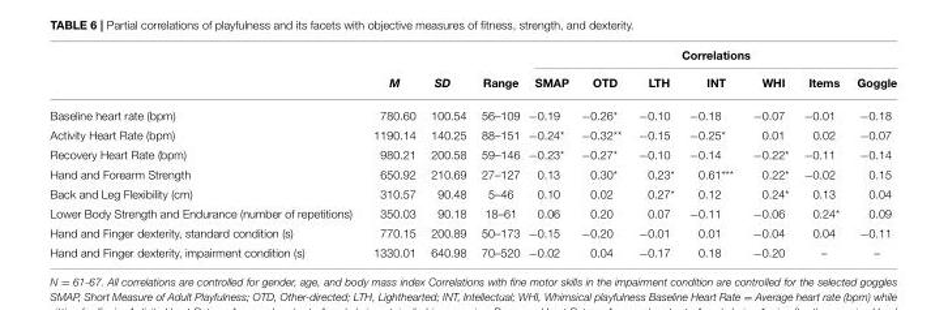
<table><thead><tr><td rowspan="2"></td><td rowspan="2">M</td><td rowspan="2">SD</td><td rowspan="2">Range</td><td colspan="7">Correlations</td></tr><tr><td>SMAP</td><td>OTD</td><td>LTH</td><td>INT</td><td>WHI</td><td>Items</td><td>Goggle</td></tr></thead><tbody><tr><td>Baseline heart rate (bpm)</td><td>780.60</td><td>100.54</td><td>56–109</td><td>−0.19</td><td>−0.26*</td><td>−0.10</td><td>−0.18</td><td>−0.07</td><td>−0.01</td><td>−0.18</td></tr><tr><td>Activity Heart Rate (bpm)</td><td>1190.14</td><td>140.25</td><td>88–151</td><td>−0.24*</td><td>−0.32**</td><td>−0.15</td><td>−0.25*</td><td>0.01</td><td>0.02</td><td>−0.07</td></tr><tr><td>Recovery Heart Rate (bpm)</td><td>980.21</td><td>200.58</td><td>59–146</td><td>−0.23*</td><td>−0.27*</td><td>−0.10</td><td>−0.14</td><td>−0.22*</td><td>−0.11</td><td>−0.14</td></tr><tr><td>Hand and Forearm Strength</td><td>650.92</td><td>210.69</td><td>27–127</td><td>0.13</td><td>0.30*</td><td>0.23*</td><td>0.61***</td><td>0.22*</td><td>−0.02</td><td>0.15</td></tr><tr><td>Back and Leg Flexibility (cm)</td><td>310.57</td><td>90.48</td><td>5–46</td><td>0.10</td><td>0.02</td><td>0.27*</td><td>0.12</td><td>0.24*</td><td>0.13</td><td>0.04</td></tr><tr><td>Lower Body Strength and Endurance (number of repetitions)</td><td>350.03</td><td>90.18</td><td>18–61</td><td>0.06</td><td>0.20</td><td>0.07</td><td>−0.11</td><td>−0.06</td><td>0.24*</td><td>0.09</td></tr><tr><td>Hand and Finger dexterity, standard condition (s)</td><td>770.15</td><td>200.89</td><td>50–173</td><td>−0.15</td><td>−0.20</td><td>−0.01</td><td>0.01</td><td>−0.04</td><td>0.04</td><td>−0.11</td></tr><tr><td>Hand and Finger dexterity, impairment condition (s)</td><td>1330.01</td><td>640.98</td><td>70–520</td><td>−0.02</td><td>0.04</td><td>−0.17</td><td>0.18</td><td>−0.20</td><td>–</td><td>–</td></tr></tbody></table>